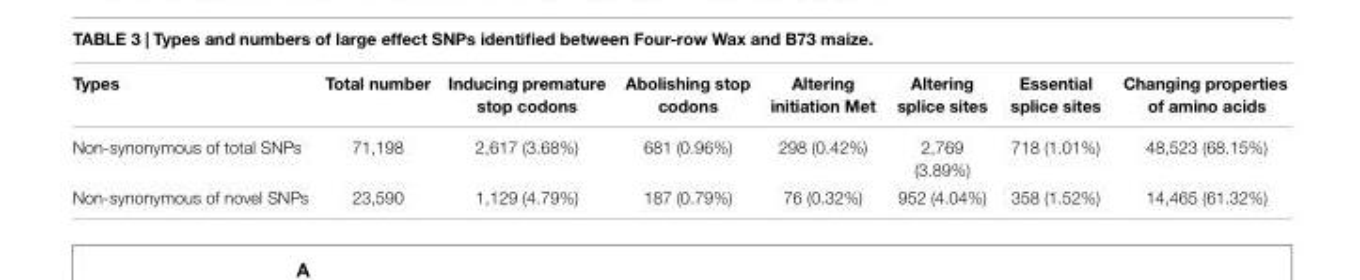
<table><thead><tr><td>Types</td><td>Total number</td><td>Inducing premature stop codons</td><td>Abolishing stop codons</td><td>Altering initiation Met</td><td>Altering splice sites</td><td>Essential splice sites</td><td>Changing properties of amino acids</td></tr></thead><tbody><tr><td>Non-synonymous of total SNPs</td><td>71,198</td><td>2,617 (3.68%)</td><td>681 (0.96%)</td><td>298 (0.42%)</td><td>2,769 (3.89%)</td><td>718 (1.01%)</td><td>48,523 (68.15%)</td></tr><tr><td>Non-synonymous of novel SNPs</td><td>23,590</td><td>1,129 (4.79%)</td><td>187 (0.79%)</td><td>76 (0.32%)</td><td>952 (4.04%)</td><td>358 (1.52%)</td><td>14,465 (61.32%)</td></tr></tbody></table>